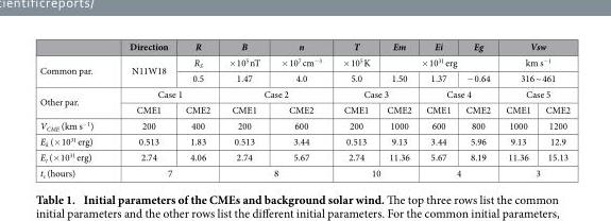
<table><thead><tr><td></td><td>Direction</td><td>R</td><td>B</td><td>n</td><td>T</td><td>Em</td><td>Ei</td><td>Eg</td><td colspan="2">Vsw</td></tr></thead><tbody><tr><td rowspan="2">Common par.</td><td rowspan="2">N11W18</td><td>R<sub>S</sub></td><td>× 10<sup>5</sup> nT</td><td>× 10<sup>7</sup> cm<sup>−3</sup></td><td>× 10<sup>5</sup> K</td><td colspan="3">× 10<sup>31</sup> erg</td><td colspan="2">km s<sup>−1</sup></td></tr><tr><td>0.5</td><td>1.47</td><td>4.0</td><td>5.0</td><td>1.50</td><td>1.37</td><td>− 0.64</td><td colspan="2">316 ~ 461</td></tr><tr><td rowspan="2">Other par.</td><td colspan="2">Case 1</td><td colspan="2">Case 2</td><td colspan="2">Case 3</td><td colspan="2">Case 4</td><td colspan="2">Case 5</td></tr><tr><td>CME1</td><td>CME2</td><td>CME1</td><td>CME2</td><td>CME1</td><td>CME2</td><td>CME1</td><td>CME2</td><td>CME1</td><td>CME2</td></tr><tr><td>V<sub>CME</sub> (km s<sup>−1</sup>)</td><td>200</td><td>400</td><td>200</td><td>600</td><td>200</td><td>1000</td><td>600</td><td>800</td><td>1000</td><td>1200</td></tr><tr><td>E<sub>k</sub> (× 10<sup>31</sup> erg)</td><td>0.513</td><td>1.83</td><td>0.513</td><td>3.44</td><td>0.513</td><td>9.13</td><td>3.44</td><td>5.96</td><td>9.13</td><td>12.9</td></tr><tr><td>E<sub>t</sub> (× 10<sup>31</sup> erg)</td><td>2.74</td><td>4.06</td><td>2.74</td><td>5.67</td><td>2.74</td><td>11.36</td><td>5.67</td><td>8.19</td><td>11.36</td><td>15.13</td></tr><tr><td>t<sub>s</sub> (hours)</td><td colspan="2">7</td><td colspan="2">8</td><td colspan="2">10</td><td colspan="2">4</td><td colspan="2">3</td></tr></tbody></table>